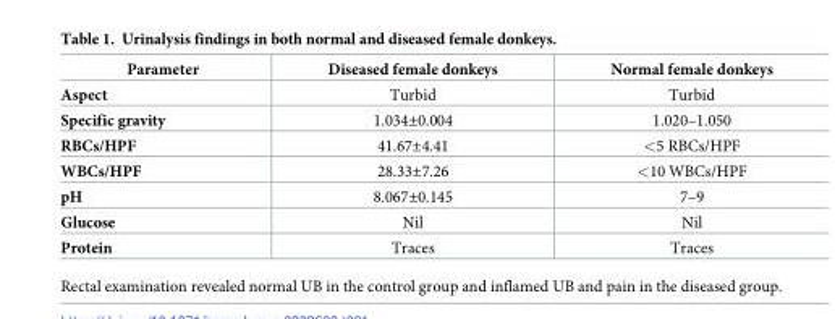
<table><thead><tr><td>Parameter</td><td>Diseased female donkeys</td><td>Normal female donkeys</td></tr></thead><tbody><tr><td>Aspect</td><td>Turbid</td><td>Turbid</td></tr><tr><td>Specific gravity</td><td>1.034±0.004</td><td>1.020–1.050</td></tr><tr><td>RBCs/HPF</td><td>41.67±4.41</td><td>&lt;5 RBCs/HPF</td></tr><tr><td>WBCs/HPF</td><td>28.33±7.26</td><td>&lt;10 WBCs/HPF</td></tr><tr><td>pH</td><td>8.067±0.145</td><td>7–9</td></tr><tr><td>Glucose</td><td>Nil</td><td>Nil</td></tr><tr><td>Protein</td><td>Traces</td><td>Traces</td></tr></tbody></table>